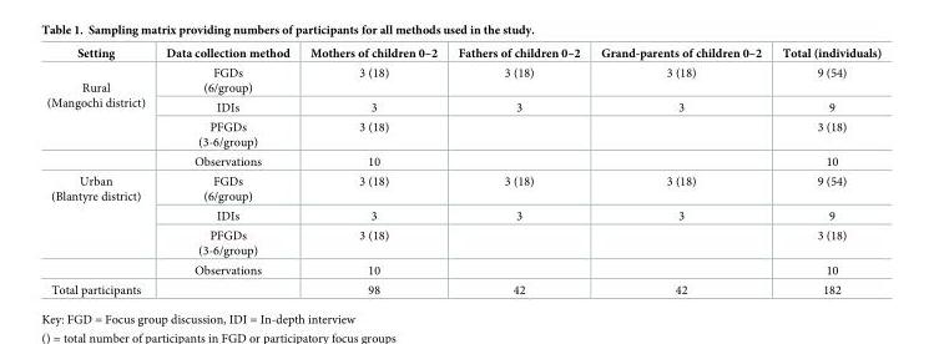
<table><thead><tr><td>Setting</td><td>Data collection method</td><td>Mothers of children 0–2</td><td>Fathers of children 0–2</td><td>Grand-parents of children 0–2</td><td>Total (individuals)</td></tr></thead><tbody><tr><td rowspan="4">Rural (Mangochi district)</td><td>FGDs (6/group)</td><td>3 (18)</td><td>3 (18)</td><td>3 (18)</td><td>9 (54)</td></tr><tr><td>IDIs</td><td>3</td><td>3</td><td>3</td><td>9</td></tr><tr><td>PFGDs (3-6/group)</td><td>3 (18)</td><td></td><td></td><td>3 (18)</td></tr><tr><td>Observations</td><td>10</td><td></td><td></td><td>10</td></tr><tr><td rowspan="4">Urban (Blantyre district)</td><td>FGDs (6/group)</td><td>3 (18)</td><td>3 (18)</td><td>3 (18)</td><td>9 (54)</td></tr><tr><td>IDIs</td><td>3</td><td>3</td><td>3</td><td>9</td></tr><tr><td>PFGDs (3-6/group)</td><td>3 (18)</td><td></td><td></td><td>3 (18)</td></tr><tr><td>Observations</td><td>10</td><td></td><td></td><td>10</td></tr><tr><td>Total participants</td><td></td><td>98</td><td>42</td><td>42</td><td>182</td></tr></tbody></table>